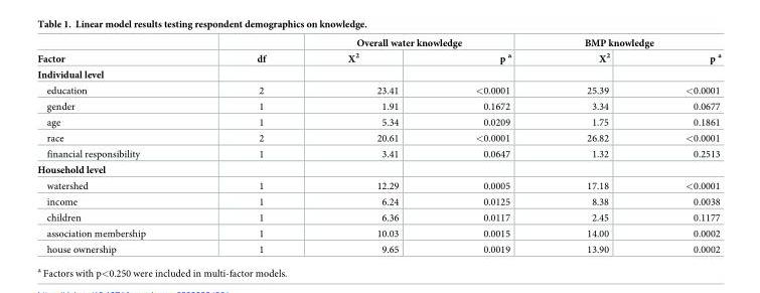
<table><thead><tr><td rowspan="2">Factor</td><td rowspan="2">df</td><td colspan="2">Overall water knowledge</td><td colspan="2">BMP knowledge</td></tr><tr><td>X<sup>2</sup></td><td>p <sup>a</sup></td><td>X<sup>2</sup></td><td>p <sup>a</sup></td></tr></thead><tbody><tr><td colspan="6">Individual level</td></tr><tr><td>education</td><td>2</td><td>23.41</td><td>&lt;0.0001</td><td>25.39</td><td>&lt;0.0001</td></tr><tr><td>gender</td><td>1</td><td>1.91</td><td>0.1672</td><td>3.34</td><td>0.0677</td></tr><tr><td>age</td><td>1</td><td>5.34</td><td>0.0209</td><td>1.75</td><td>0.1861</td></tr><tr><td>race</td><td>2</td><td>20.61</td><td>&lt;0.0001</td><td>26.82</td><td>&lt;0.0001</td></tr><tr><td>financial responsibility</td><td>1</td><td>3.41</td><td>0.0647</td><td>1.32</td><td>0.2513</td></tr><tr><td colspan="6">Household level</td></tr><tr><td>watershed</td><td>1</td><td>12.29</td><td>0.0005</td><td>17.18</td><td>&lt;0.0001</td></tr><tr><td>income</td><td>1</td><td>6.24</td><td>0.0125</td><td>8.38</td><td>0.0038</td></tr><tr><td>children</td><td>1</td><td>6.36</td><td>0.0117</td><td>2.45</td><td>0.1177</td></tr><tr><td>association membership</td><td>1</td><td>10.03</td><td>0.0015</td><td>14.00</td><td>0.0002</td></tr><tr><td>house ownership</td><td>1</td><td>9.65</td><td>0.0019</td><td>13.90</td><td>0.0002</td></tr></tbody></table>